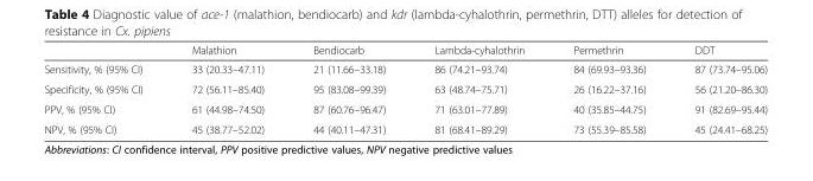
<table><thead><tr><td></td><td>Malathion</td><td>Bendiocarb</td><td>Lambda-cyhalothrin</td><td>Permethrin</td><td>DDT</td></tr></thead><tbody><tr><td>Sensitivity, % (95% CI)</td><td>33 (20.33–47.11)</td><td>21 (11.66–33.18)</td><td>86 (74.21–93.74)</td><td>84 (69.93–93.36)</td><td>87 (73.74–95.06)</td></tr><tr><td>Specificity, % (95% CI)</td><td>72 (56.11–85.40)</td><td>95 (83.08–99.39)</td><td>63 (48.74–75.71)</td><td>26 (16.22–37.16)</td><td>56 (21.20–86.30)</td></tr><tr><td>PPV, % (95% CI)</td><td>61 (44.98–74.50)</td><td>87 (60.76–96.47)</td><td>71 (63.01–77.89)</td><td>40 (35.85–44.75)</td><td>91 (82.69–95.44)</td></tr><tr><td>NPV, % (95% CI)</td><td>45 (38.77–52.02)</td><td>44 (40.11–47.31)</td><td>81 (68.41–89.29)</td><td>73 (55.39–85.58)</td><td>45 (24.41–68.25)</td></tr></tbody></table>